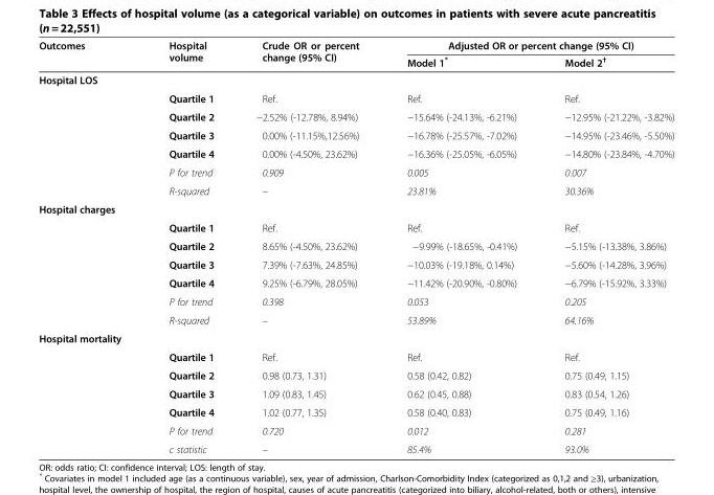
<table><thead><tr><td rowspan="2">Outcomes</td><td rowspan="2">Hospital volume</td><td rowspan="2">Crude OR or percent change (95% CI)</td><td colspan="2">Adjusted OR or percent change (95% CI)</td></tr><tr><td>Model 1*</td><td>Model 2<sup>†</sup></td></tr></thead><tbody><tr><td colspan="5">Hospital LOS</td></tr><tr><td></td><td>Quartile 1</td><td>Ref.</td><td>Ref.</td><td>Ref.</td></tr><tr><td></td><td>Quartile 2</td><td>−2.52% (-12.78%, 8.94%)</td><td>−15.64% (-24.13%, -6.21%)</td><td>−12.95% (-21.22%, -3.82%)</td></tr><tr><td></td><td>Quartile 3</td><td>0.00% (-11.15%,12.56%)</td><td>−16.78% (-25.57%, -7.02%)</td><td>−14.95% (-23.46%, -5.50%)</td></tr><tr><td></td><td>Quartile 4</td><td>0.00% (-4.50%, 23.62%)</td><td>−16.36% (-25.05%, -6.05%)</td><td>−14.80% (-23.84%, -4.70%)</td></tr><tr><td></td><td>P for trend</td><td>0.909</td><td>0.005</td><td>0.007</td></tr><tr><td></td><td>R-squared</td><td>–</td><td>23.81%</td><td>30.36%</td></tr><tr><td colspan="5">Hospital charges</td></tr><tr><td></td><td>Quartile 1</td><td>Ref.</td><td>Ref.</td><td>Ref.</td></tr><tr><td></td><td>Quartile 2</td><td>8.65% (-4.50%, 23.62%)</td><td>−9.99% (-18.65%, -0.41%)</td><td>−5.15% (-13.38%, 3.86%)</td></tr><tr><td></td><td>Quartile 3</td><td>7.39% (-7.63%, 24.85%)</td><td>−10.03% (-19.18%, 0.14%)</td><td>−5.60% (-14.28%, 3.96%)</td></tr><tr><td></td><td>Quartile 4</td><td>9.25% (-6.79%, 28.05%)</td><td>−11.42% (-20.90%, -0.80%)</td><td>−6.79% (-15.92%, 3.33%)</td></tr><tr><td></td><td>P for trend</td><td>0.398</td><td>0.053</td><td>0.205</td></tr><tr><td></td><td>R-squared</td><td>–</td><td>53.89%</td><td>64.16%</td></tr><tr><td colspan="5">Hospital mortality</td></tr><tr><td></td><td>Quartile 1</td><td>Ref.</td><td>Ref.</td><td>Ref.</td></tr><tr><td></td><td>Quartile 2</td><td>0.98 (0.73, 1.31)</td><td>0.58 (0.42, 0.82)</td><td>0.75 (0.49, 1.15)</td></tr><tr><td></td><td>Quartile 3</td><td>1.09 (0.83, 1.45)</td><td>0.62 (0.45, 0.88)</td><td>0.83 (0.54, 1.26)</td></tr><tr><td></td><td>Quartile 4</td><td>1.02 (0.77, 1.35)</td><td>0.58 (0.40, 0.83)</td><td>0.75 (0.49, 1.16)</td></tr><tr><td></td><td>P for trend</td><td>0.720</td><td>0.012</td><td>0.281</td></tr><tr><td></td><td>c statistic</td><td>–</td><td>85.4%</td><td>93.0%</td></tr></tbody></table>